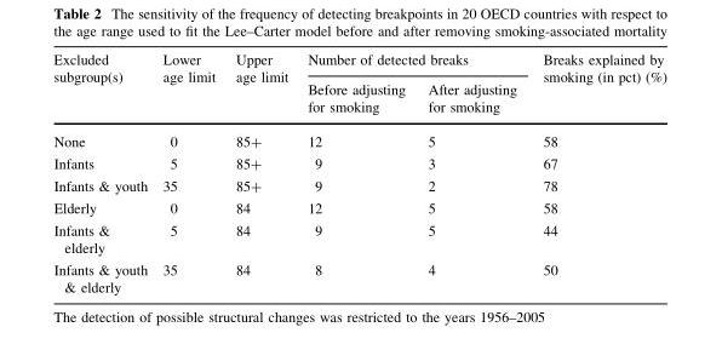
<table><thead><tr><td rowspan="2">Excluded subgroup(s)</td><td rowspan="2">Lower age limit</td><td rowspan="2">Upper age limit</td><td colspan="2">Number of detected breaks</td><td rowspan="2">Breaks explained by smoking (in pct) (%)</td></tr><tr><td>Before adjusting for smoking</td><td>After adjusting for smoking</td></tr></thead><tbody><tr><td>None</td><td>0</td><td>85+</td><td>12</td><td>5</td><td>58</td></tr><tr><td>Infants</td><td>5</td><td>85+</td><td>9</td><td>3</td><td>67</td></tr><tr><td>Infants &amp; youth</td><td>35</td><td>85+</td><td>9</td><td>2</td><td>78</td></tr><tr><td>Elderly</td><td>0</td><td>84</td><td>12</td><td>5</td><td>58</td></tr><tr><td>Infants &amp; elderly</td><td>5</td><td>84</td><td>9</td><td>5</td><td>44</td></tr><tr><td>Infants &amp; youth &amp; elderly</td><td>35</td><td>84</td><td>8</td><td>4</td><td>50</td></tr></tbody></table>